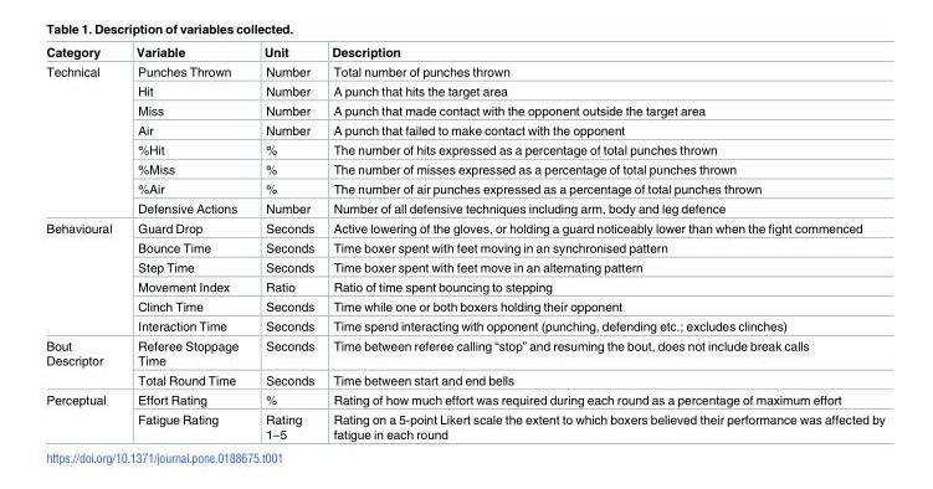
<table><thead><tr><td>Category</td><td>Variable</td><td>Unit</td><td>Description</td></tr></thead><tbody><tr><td rowspan="8">Technical</td><td>Punches Thrown</td><td>Number</td><td>Total number of punches thrown</td></tr><tr><td>Hit</td><td>Number</td><td>A punch that hits the target area</td></tr><tr><td>Miss</td><td>Number</td><td>A punch that made contact with the opponent outside the target area</td></tr><tr><td>Air</td><td>Number</td><td>A punch that failed to make contact with the opponent</td></tr><tr><td>%Hit</td><td>%</td><td>The number of hits expressed as a percentage of total punches thrown</td></tr><tr><td>%Miss</td><td>%</td><td>The number of misses expressed as a percentage of total punches thrown</td></tr><tr><td>%Air</td><td>%</td><td>The number of air punches expressed as a percentage of total punches thrown</td></tr><tr><td>Defensive Actions</td><td>Number</td><td>Number of all defensive techniques including arm, body and leg defence</td></tr><tr><td rowspan="6">Behavioural</td><td>Guard Drop</td><td>Seconds</td><td>Active lowering of the gloves, or holding a guard noticeably lower than when the fight commenced</td></tr><tr><td>Bounce Time</td><td>Seconds</td><td>Time boxer spent with feet moving in an synchronised pattern</td></tr><tr><td>Step Time</td><td>Seconds</td><td>Time boxer spent with feet move in an alternating pattern</td></tr><tr><td>Movement Index</td><td>Ratio</td><td>Ratio of time spent bouncing to stepping</td></tr><tr><td>Clinch Time</td><td>Seconds</td><td>Time while one or both boxers holding their opponent</td></tr><tr><td>Interaction Time</td><td>Seconds</td><td>Time spend interacting with opponent (punching, defending etc.; excludes clinches)</td></tr><tr><td rowspan="2">Bout Descriptor</td><td>Referee Stoppage Time</td><td>Seconds</td><td>Time between referee calling “stop” and resuming the bout, does not include break calls</td></tr><tr><td>Total Round Time</td><td>Seconds</td><td>Time between start and end bells</td></tr><tr><td rowspan="2">Perceptual</td><td>Effort Rating</td><td>%</td><td>Rating of how much effort was required during each round as a percentage of maximum effort</td></tr><tr><td>Fatigue Rating</td><td>Rating 1–5</td><td>Rating on a 5-point Likert scale the extent to which boxers believed their performance was affected by fatigue in each round</td></tr></tbody></table>